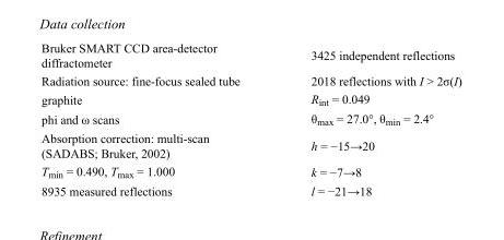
<table><tbody><tr><td>Bruker SMART CCD area-detector diffractometer</td><td>3425 independent reflections</td></tr><tr><td>Radiation source: fine-focus sealed tube</td><td>2018 reflections with I &gt; 2σ(I)</td></tr><tr><td>graphite</td><td>R<sub>int</sub> = 0.049</td></tr><tr><td>phi and ω scans</td><td>θ<sub>max</sub> = 27.0°, θ<sub>min</sub> = 2.4°</td></tr><tr><td>Absorption correction: multi-scan (SADABS; Bruker, 2002)</td><td>h = −15→20</td></tr><tr><td>T<sub>min</sub> = 0.490, T<sub>max</sub> = 1.000</td><td>k = −7→8</td></tr><tr><td>8935 measured reflections</td><td>l = −21→18</td></tr></tbody></table>